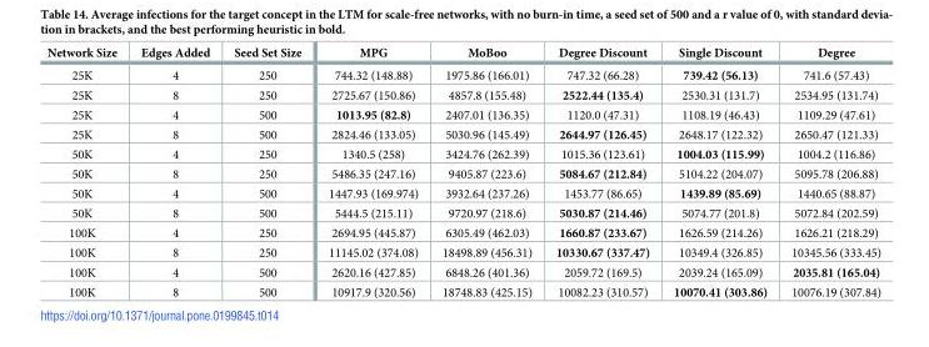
<table><thead><tr><td>Network Size</td><td>Edges Added</td><td>Seed Set Size</td><td>MPG</td><td>MoBoo</td><td>Degree Discount</td><td>Single Discount</td><td>Degree</td></tr></thead><tbody><tr><td>25K</td><td>4</td><td>250</td><td>744.32 (148.88)</td><td>1975.86 (166.01)</td><td>747.32 (66.28)</td><td>739.42 (56.13)</td><td>741.6 (57.43)</td></tr><tr><td>25K</td><td>8</td><td>250</td><td>2725.67 (150.86)</td><td>4857.8 (155.48)</td><td>2522.44 (135.4)</td><td>2530.31 (131.7)</td><td>2534.95 (131.74)</td></tr><tr><td>25K</td><td>4</td><td>500</td><td>1013.95 (82.8)</td><td>2407.01 (136.35)</td><td>1120.0 (47.31)</td><td>1108.19 (46.43)</td><td>1109.29 (47.61)</td></tr><tr><td>25K</td><td>8</td><td>500</td><td>2824.46 (133.05)</td><td>5030.96 (145.49)</td><td>2644.97 (126.45)</td><td>2648.17 (122.32)</td><td>2650.47 (121.33)</td></tr><tr><td>50K</td><td>4</td><td>250</td><td>1340.5 (258)</td><td>3424.76 (262.39)</td><td>1015.36 (123.61)</td><td>1004.03 (115.99)</td><td>1004.2 (116.86)</td></tr><tr><td>50K</td><td>8</td><td>250</td><td>5486.35 (247.16)</td><td>9405.87 (223.6)</td><td>5084.67 (212.84)</td><td>5104.22 (204.07)</td><td>5095.78 (206.88)</td></tr><tr><td>50K</td><td>4</td><td>500</td><td>1447.93 (169.974)</td><td>3932.64 (237.26)</td><td>1453.77 (86.65)</td><td>1439.89 (85.69)</td><td>1440.65 (88.87)</td></tr><tr><td>50K</td><td>8</td><td>500</td><td>5444.5 (215.11)</td><td>9720.97 (218.6)</td><td>5030.87 (214.46)</td><td>5074.77 (201.8)</td><td>5072.84 (202.59)</td></tr><tr><td>100K</td><td>4</td><td>250</td><td>2694.95 (445.87)</td><td>6305.49 (462.03)</td><td>1660.87 (233.67)</td><td>1626.59 (214.26)</td><td>1626.21 (218.29)</td></tr><tr><td>100K</td><td>8</td><td>250</td><td>11145.02 (374.08)</td><td>18498.89 (456.31)</td><td>10330.67 (337.47)</td><td>10349.4 (326.85)</td><td>10345.56 (333.45)</td></tr><tr><td>100K</td><td>4</td><td>500</td><td>2620.16 (427.85)</td><td>6848.26 (401.36)</td><td>2059.72 (169.5)</td><td>2039.24 (165.09)</td><td>2035.81 (165.04)</td></tr><tr><td>100K</td><td>8</td><td>500</td><td>10917.9 (320.56)</td><td>18748.83 (425.15)</td><td>10082.23 (310.57)</td><td>10070.41 (303.86)</td><td>10076.19 (307.84)</td></tr></tbody></table>